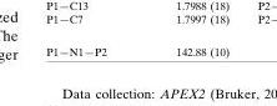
<table><tbody><tr><td>P1—N1—P2</td><td>142.88 (10)</td></tr></tbody></table>